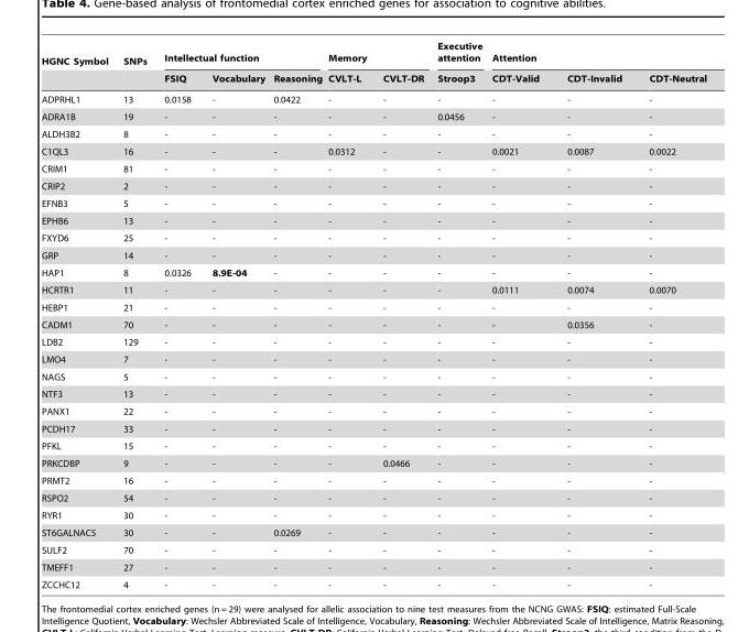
<table><thead><tr><td rowspan="2">HGNC Symbol</td><td rowspan="2">SNPs</td><td colspan="3">Intellectual function</td><td colspan="2">Memory</td><td rowspan="2">Executive attention Stroop3</td><td colspan="3">Attention</td></tr><tr><td>FSIQ</td><td>Vocabulary</td><td>Reasoning</td><td>CVLT-L</td><td>CVLT-DR</td><td>CDT-Valid</td><td>CDT-Invalid</td><td>CDT-Neutral</td></tr></thead><tbody><tr><td>ADPRHL1</td><td>13</td><td>0.0158</td><td>-</td><td>0.0422</td><td>-</td><td>-</td><td>-</td><td>-</td><td>-</td><td>-</td></tr><tr><td>ADRA1B</td><td>19</td><td>-</td><td>-</td><td>-</td><td>-</td><td>-</td><td>0.0456</td><td>-</td><td>-</td><td>-</td></tr><tr><td>ALDH3B2</td><td>8</td><td>-</td><td>-</td><td>-</td><td>-</td><td>-</td><td>-</td><td>-</td><td>-</td><td>-</td></tr><tr><td>C1QL3</td><td>16</td><td>-</td><td>-</td><td>-</td><td>0.0312</td><td>-</td><td>-</td><td>0.0021</td><td>0.0087</td><td>0.0022</td></tr><tr><td>CRIM1</td><td>81</td><td>-</td><td>-</td><td>-</td><td>-</td><td>-</td><td>-</td><td>-</td><td>-</td><td>-</td></tr><tr><td>CRIP2</td><td>2</td><td>-</td><td>-</td><td>-</td><td>-</td><td>-</td><td>-</td><td>-</td><td>-</td><td>-</td></tr><tr><td>EFNB3</td><td>5</td><td>-</td><td>-</td><td>-</td><td>-</td><td>-</td><td>-</td><td>-</td><td>-</td><td>-</td></tr><tr><td>EPHB6</td><td>13</td><td>-</td><td>-</td><td>-</td><td>-</td><td>-</td><td>-</td><td>-</td><td>-</td><td>-</td></tr><tr><td>FXYD6</td><td>25</td><td>-</td><td>-</td><td>-</td><td>-</td><td>-</td><td>-</td><td>-</td><td>-</td><td>-</td></tr><tr><td>GRP</td><td>14</td><td>-</td><td>-</td><td>-</td><td>-</td><td>-</td><td>-</td><td>-</td><td>-</td><td>-</td></tr><tr><td>HAP1</td><td>8</td><td>0.0326</td><td>8.9E-04</td><td>-</td><td>-</td><td>-</td><td>-</td><td>-</td><td>-</td><td>-</td></tr><tr><td>HCRTR1</td><td>11</td><td>-</td><td>-</td><td>-</td><td>-</td><td>-</td><td>-</td><td>0.0111</td><td>0.0074</td><td>0.0070</td></tr><tr><td>HEBP1</td><td>21</td><td>-</td><td>-</td><td>-</td><td>-</td><td>-</td><td>-</td><td>-</td><td>-</td><td>-</td></tr><tr><td>CADM1</td><td>70</td><td>-</td><td>-</td><td>-</td><td>-</td><td>-</td><td>-</td><td>-</td><td>0.0356</td><td>-</td></tr><tr><td>LDB2</td><td>129</td><td>-</td><td>-</td><td>-</td><td>-</td><td>-</td><td>-</td><td>-</td><td>-</td><td>-</td></tr><tr><td>LMO4</td><td>7</td><td>-</td><td>-</td><td>-</td><td>-</td><td>-</td><td>-</td><td>-</td><td>-</td><td>-</td></tr><tr><td>NAGS</td><td>5</td><td>-</td><td>-</td><td>-</td><td>-</td><td>-</td><td>-</td><td>-</td><td>-</td><td>-</td></tr><tr><td>NTF3</td><td>13</td><td>-</td><td>-</td><td>-</td><td>-</td><td>-</td><td>-</td><td>-</td><td>-</td><td>-</td></tr><tr><td>PANX1</td><td>22</td><td>-</td><td>-</td><td>-</td><td>-</td><td>-</td><td>-</td><td>-</td><td>-</td><td>-</td></tr><tr><td>PCDH17</td><td>33</td><td>-</td><td>-</td><td>-</td><td>-</td><td>-</td><td>-</td><td>-</td><td>-</td><td>-</td></tr><tr><td>PFKL</td><td>15</td><td>-</td><td>-</td><td>-</td><td>-</td><td>-</td><td>-</td><td>-</td><td>-</td><td>-</td></tr><tr><td>PRKCDBP</td><td>9</td><td>-</td><td>-</td><td>-</td><td>-</td><td>0.0466</td><td>-</td><td>-</td><td>-</td><td>-</td></tr><tr><td>PRMT2</td><td>16</td><td>-</td><td>-</td><td>-</td><td>-</td><td>-</td><td>-</td><td>-</td><td>-</td><td>-</td></tr><tr><td>RSPO2</td><td>54</td><td>-</td><td>-</td><td>-</td><td>-</td><td>-</td><td>-</td><td>-</td><td>-</td><td>-</td></tr><tr><td>RYR1</td><td>30</td><td>-</td><td>-</td><td>-</td><td>-</td><td>-</td><td>-</td><td>-</td><td>-</td><td>-</td></tr><tr><td>ST6GALNAC5</td><td>30</td><td>-</td><td>-</td><td>0.0269</td><td>-</td><td>-</td><td>-</td><td>-</td><td>-</td><td>-</td></tr><tr><td>SULF2</td><td>70</td><td>-</td><td>-</td><td>-</td><td>-</td><td>-</td><td>-</td><td>-</td><td>-</td><td>-</td></tr><tr><td>TMEFF1</td><td>27</td><td>-</td><td>-</td><td>-</td><td>-</td><td>-</td><td>-</td><td>-</td><td>-</td><td>-</td></tr><tr><td>ZCCHC12</td><td>4</td><td>-</td><td>-</td><td>-</td><td>-</td><td>-</td><td>-</td><td>-</td><td>-</td><td>-</td></tr></tbody></table>